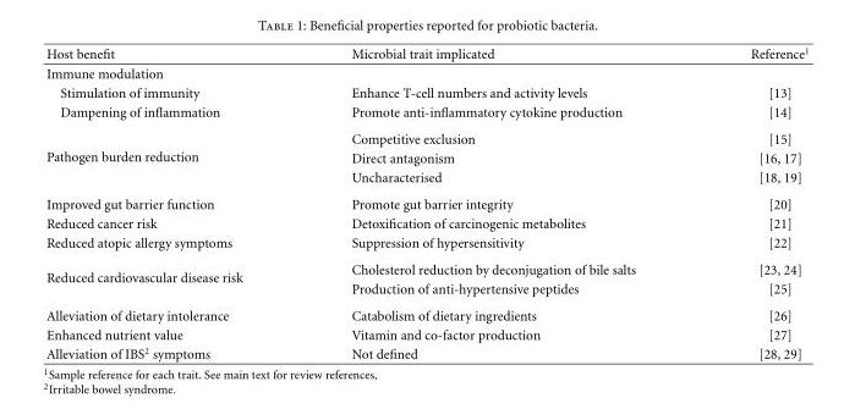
<table><thead><tr><td>Host benefit</td><td>Microbial trait implicated</td><td>Reference<sup>1</sup></td></tr></thead><tbody><tr><td colspan="3">Immune modulation</td></tr><tr><td>Stimulation of immunity</td><td>Enhance T-cell numbers and activity levels</td><td>[13]</td></tr><tr><td>Dampening of inflammation</td><td>Promote anti-inflammatory cytokine production</td><td>[14]</td></tr><tr><td rowspan="3">Pathogen burden reduction</td><td>Competitive exclusion</td><td>[15]</td></tr><tr><td>Direct antagonism</td><td>[16, 17]</td></tr><tr><td>Uncharacterised</td><td>[18, 19]</td></tr><tr><td>Improved gut barrier function</td><td>Promote gut barrier integrity</td><td>[20]</td></tr><tr><td>Reduced cancer risk</td><td>Detoxification of carcinogenic metabolites</td><td>[21]</td></tr><tr><td>Reduced atopic allergy symptoms</td><td>Suppression of hypersensitivity</td><td>[22]</td></tr><tr><td rowspan="2">Reduced cardiovascular disease risk</td><td>Cholesterol reduction by deconjugation of bile salts</td><td>[23, 24]</td></tr><tr><td>Production of anti-hypertensive peptides</td><td>[25]</td></tr><tr><td>Alleviation of dietary intolerance</td><td>Catabolism of dietary ingredients</td><td>[26]</td></tr><tr><td>Enhanced nutrient value</td><td>Vitamin and co-factor production</td><td>[27]</td></tr><tr><td>Alleviation of IBS<sup>2</sup> symptoms</td><td>Not defined</td><td>[28, 29]</td></tr></tbody></table>